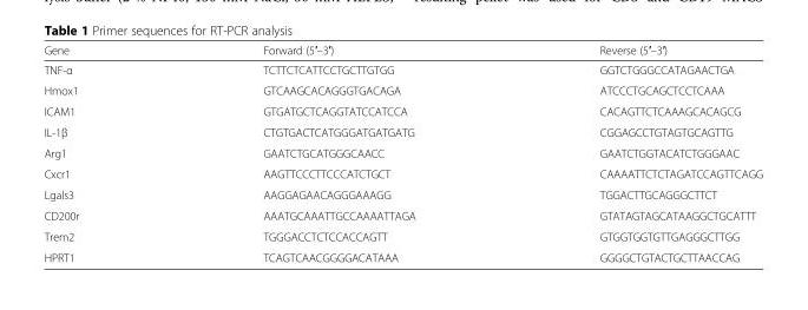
<table><thead><tr><td>Gene</td><td>Forward (5′–3′)</td><td>Reverse (5′–3′)</td></tr></thead><tbody><tr><td>TNF-α</td><td>TCTTCTCATTCCTGCTTGTGG</td><td>GGTCTGGGCCATAGAACTGA</td></tr><tr><td>Hmox1</td><td>GTCAAGCACAGGGTGACAGA</td><td>ATCCCTGCAGCTCCTCAAA</td></tr><tr><td>ICAM1</td><td>GTGATGCTCAGGTATCCATCCA</td><td>CACAGTTCTCAAAGCACAGCG</td></tr><tr><td>IL-1β</td><td>CTGTGACTCATGGGATGATGATG</td><td>CGGAGCCTGTAGTGCAGTTG</td></tr><tr><td>Arg1</td><td>GAATCTGCATGGGCAACC</td><td>GAATCTGGTACATCTGGGAAC</td></tr><tr><td>Cxcr1</td><td>AAGTTCCCTTCCCATCTGCT</td><td>CAAAATTCTCTAGATCCAGTTCAGG</td></tr><tr><td>Lgals3</td><td>AAGGAGAACAGGGAAAGG</td><td>TGGACTTGCAGGGCTTCT</td></tr><tr><td>CD200r</td><td>AAATGCAAATTGCCAAAATTAGA</td><td>GTATAGTAGCATAAGGCTGCATTT</td></tr><tr><td>Trem2</td><td>TGGGACCTCTCCACCAGTT</td><td>GTGGTGGTGTTGAGGGCTTGG</td></tr><tr><td>HPRT1</td><td>TCAGTCAACGGGGACATAAA</td><td>GGGGCTGTACTGCTTAACCAG</td></tr></tbody></table>